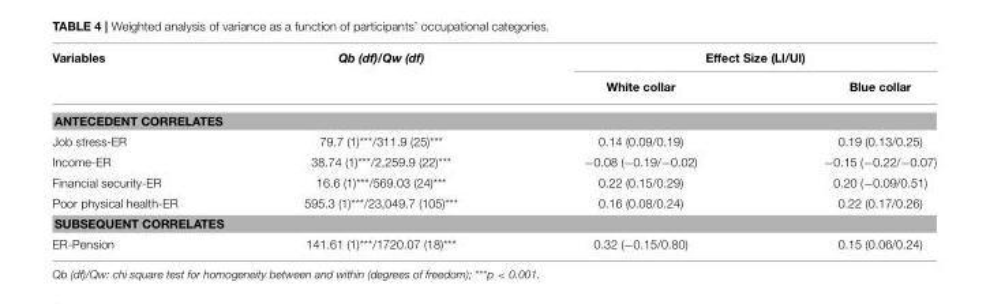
<table><thead><tr><td rowspan="2">Variables</td><td rowspan="2">Qb (df)/Qw (df)</td><td colspan="2">Effect Size (Ll/Ul)</td></tr><tr><td>White collar</td><td>Blue collar</td></tr></thead><tbody><tr><td colspan="4">ANTECEDENT CORRELATES</td></tr><tr><td>Job stress-ER</td><td>79.7 (1)***/311.9 (25)***</td><td>0.14 (0.09/0.19)</td><td>0.19 (0.13/0.25)</td></tr><tr><td>Income-ER</td><td>38.74 (1)***/2,259.9 (22)***</td><td>−0.08 (−0.19/−0.02)</td><td>−0.15 (−0.22/−0.07)</td></tr><tr><td>Financial security-ER</td><td>16.6 (1)***/569.03 (24)***</td><td>0.22 (0.15/0.29)</td><td>0.20 (−0.09/0.51)</td></tr><tr><td>Poor physical health-ER</td><td>595.3 (1)***/23,049.7 (105)***</td><td>0.16 (0.08/0.24)</td><td>0.22 (0.17/0.26)</td></tr><tr><td colspan="4">SUBSEQUENT CORRELATES</td></tr><tr><td>ER-Pension</td><td>141.61 (1)***/1720.07 (18)***</td><td>0.32 (−0.15/0.80)</td><td>0.15 (0.06/0.24)</td></tr></tbody></table>